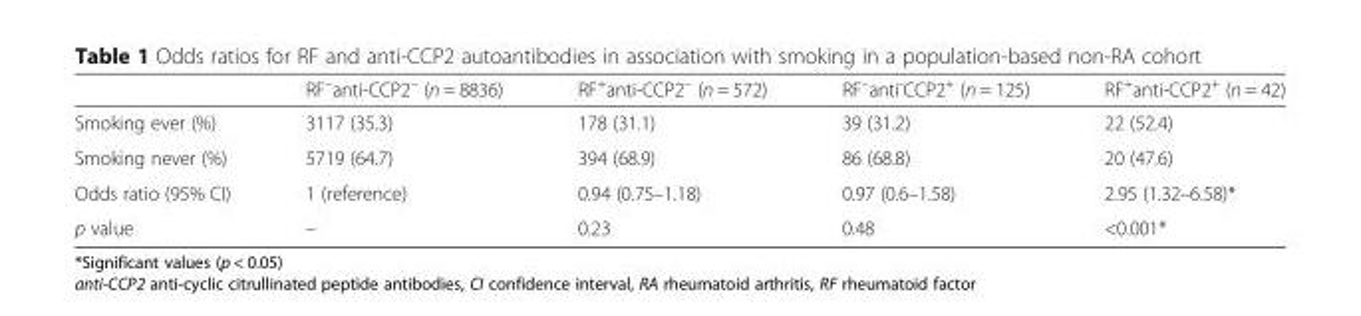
<table><thead><tr><td></td><td>RF<sup>–</sup>anti-CCP2<sup>–</sup> (n = 8836)</td><td>RF<sup>+</sup>anti-CCP2<sup>–</sup> (n = 572)</td><td>RF<sup>–</sup>anti<sup>-</sup>CCP2<sup>+</sup> (n = 125)</td><td>RF<sup>+</sup>anti-CCP2<sup>+</sup> (n = 42)</td></tr></thead><tbody><tr><td>Smoking ever (%)</td><td>3117 (35.3)</td><td>178 (31.1)</td><td>39 (31.2)</td><td>22 (52.4)</td></tr><tr><td>Smoking never (%)</td><td>5719 (64.7)</td><td>394 (68.9)</td><td>86 (68.8)</td><td>20 (47.6)</td></tr><tr><td>Odds ratio (95% CI)</td><td>1 (reference)</td><td>0.94 (0.75–1.18)</td><td>0.97 (0.6–1.58)</td><td>2.95 (1.32–6.58)*</td></tr><tr><td>p value</td><td>–</td><td>0.23</td><td>0.48</td><td>&lt;0.001*</td></tr></tbody></table>